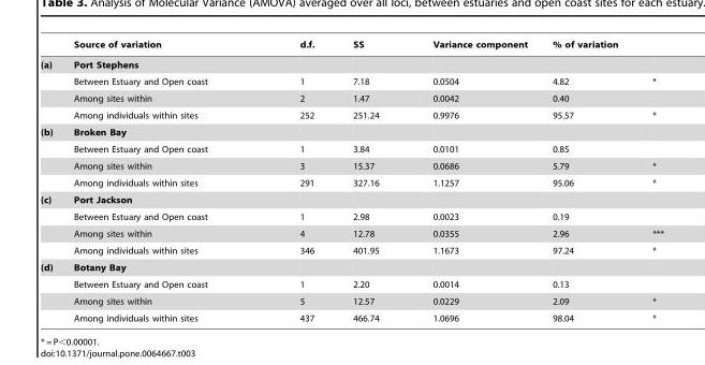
<table><thead><tr><td></td><td>Source of variation</td><td>d.f.</td><td>SS</td><td>Variance component</td><td>% of variation</td><td></td></tr></thead><tbody><tr><td rowspan="4">(a)</td><td>Port Stephens</td><td></td><td></td><td></td><td></td><td></td></tr><tr><td>Between Estuary and Open coast</td><td>1</td><td>7.18</td><td>0.0504</td><td>4.82</td><td>*</td></tr><tr><td>Among sites within</td><td>2</td><td>1.47</td><td>0.0042</td><td>0.40</td><td></td></tr><tr><td>Among individuals within sites</td><td>252</td><td>251.24</td><td>0.9976</td><td>95.57</td><td>*</td></tr><tr><td rowspan="4">(b)</td><td>Broken Bay</td><td></td><td></td><td></td><td></td><td></td></tr><tr><td>Between Estuary and Open coast</td><td>1</td><td>3.84</td><td>0.0101</td><td>0.85</td><td></td></tr><tr><td>Among sites within</td><td>3</td><td>15.37</td><td>0.0686</td><td>5.79</td><td>*</td></tr><tr><td>Among individuals within sites</td><td>291</td><td>327.16</td><td>1.1257</td><td>95.06</td><td>*</td></tr><tr><td rowspan="4">(c)</td><td>Port Jackson</td><td></td><td></td><td></td><td></td><td></td></tr><tr><td>Between Estuary and Open coast</td><td>1</td><td>2.98</td><td>0.0023</td><td>0.19</td><td></td></tr><tr><td>Among sites within</td><td>4</td><td>12.78</td><td>0.0355</td><td>2.96</td><td>***</td></tr><tr><td>Among individuals within sites</td><td>346</td><td>401.95</td><td>1.1673</td><td>97.24</td><td>*</td></tr><tr><td rowspan="4">(d)</td><td>Botany Bay</td><td></td><td></td><td></td><td></td><td></td></tr><tr><td>Between Estuary and Open coast</td><td>1</td><td>2.20</td><td>0.0014</td><td>0.13</td><td></td></tr><tr><td>Among sites within</td><td>5</td><td>12.57</td><td>0.0229</td><td>2.09</td><td>*</td></tr><tr><td>Among individuals within sites</td><td>437</td><td>466.74</td><td>1.0696</td><td>98.04</td><td>*</td></tr></tbody></table>